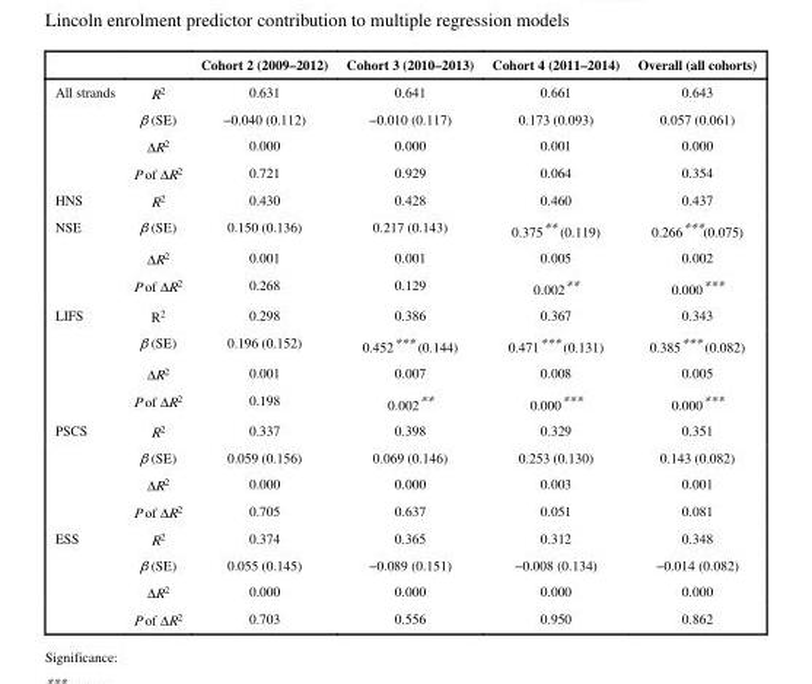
<table><thead><tr><td></td><td></td><td>Cohort 2 (2009–2012)</td><td>Cohort 3 (2010–2013)</td><td>Cohort 4 (2011–2014)</td><td>Overall (all cohorts)</td></tr></thead><tbody><tr><td rowspan="4">All strands</td><td>R<sup>2</sup></td><td>0.631</td><td>0.641</td><td>0.661</td><td>0.643</td></tr><tr><td>β (SE)</td><td>−0.040 (0.112)</td><td>−0.010 (0.117)</td><td>0.173 (0.093)</td><td>0.057 (0.061)</td></tr><tr><td>ΔR<sup>2</sup></td><td>0.000</td><td>0.000</td><td>0.001</td><td>0.000</td></tr><tr><td>P of ΔR<sup>2</sup></td><td>0.721</td><td>0.929</td><td>0.064</td><td>0.354</td></tr><tr><td>HNS</td><td>R<sup>2</sup></td><td>0.430</td><td>0.428</td><td>0.460</td><td>0.437</td></tr><tr><td rowspan="3">NSE</td><td>β (SE)</td><td>0.150 (0.136)</td><td>0.217 (0.143)</td><td>0.375** (0.119)</td><td>0.266***(0.075)</td></tr><tr><td>ΔR<sup>2</sup></td><td>0.001</td><td>0.001</td><td>0.005</td><td>0.002</td></tr><tr><td>P of ΔR<sup>2</sup></td><td>0.268</td><td>0.129</td><td>0.002**</td><td>0.000***</td></tr><tr><td rowspan="4">LIFS</td><td>R<sup>2</sup></td><td>0.298</td><td>0.386</td><td>0.367</td><td>0.343</td></tr><tr><td>β (SE)</td><td>0.196 (0.152)</td><td>0.452*** (0.144)</td><td>0.471*** (0.131)</td><td>0.385*** (0.082)</td></tr><tr><td>ΔR<sup>2</sup></td><td>0.001</td><td>0.007</td><td>0.008</td><td>0.005</td></tr><tr><td>P of ΔR<sup>2</sup></td><td>0.198</td><td>0.002**</td><td>0.000***</td><td>0.000***</td></tr><tr><td rowspan="4">PSCS</td><td>R<sup>2</sup></td><td>0.337</td><td>0.398</td><td>0.329</td><td>0.351</td></tr><tr><td>β (SE)</td><td>0.059 (0.156)</td><td>0.069 (0.146)</td><td>0.253 (0.130)</td><td>0.143 (0.082)</td></tr><tr><td>ΔR<sup>2</sup></td><td>0.000</td><td>0.000</td><td>0.003</td><td>0.001</td></tr><tr><td>P of ΔR<sup>2</sup></td><td>0.705</td><td>0.637</td><td>0.051</td><td>0.081</td></tr><tr><td rowspan="4">ESS</td><td>R<sup>2</sup></td><td>0.374</td><td>0.365</td><td>0.312</td><td>0.348</td></tr><tr><td>β (SE)</td><td>0.055 (0.145)</td><td>−0.089 (0.151)</td><td>−0.008 (0.134)</td><td>−0.014 (0.082)</td></tr><tr><td>ΔR<sup>2</sup></td><td>0.000</td><td>0.000</td><td>0.000</td><td>0.000</td></tr><tr><td>P of ΔR<sup>2</sup></td><td>0.703</td><td>0.556</td><td>0.950</td><td>0.862</td></tr></tbody></table>